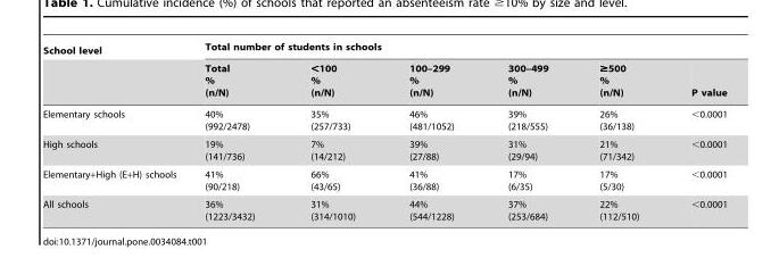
<table><thead><tr><td rowspan="2">School level</td><td colspan="6">Total number of students in schools</td></tr><tr><td>Total % (n/N)</td><td>&lt;100 % (n/N)</td><td>100–299 % (n/N)</td><td>300–499 % (n/N)</td><td>≥500 % (n/N)</td><td>P value</td></tr></thead><tbody><tr><td>Elementary schools</td><td>40% (992/2478)</td><td>35% (257/733)</td><td>46% (481/1052)</td><td>39% (218/555)</td><td>26% (36/138)</td><td>&lt;0.0001</td></tr><tr><td>High schools</td><td>19% (141/736)</td><td>7% (14/212)</td><td>39% (27/88)</td><td>31% (29/94)</td><td>21% (71/342)</td><td>&lt;0.0001</td></tr><tr><td>Elementary+High (E+H) schools</td><td>41% (90/218)</td><td>66% (43/65)</td><td>41% (36/88)</td><td>17% (6/35)</td><td>17% (5/30)</td><td>&lt;0.0001</td></tr><tr><td>All schools</td><td>36% (1223/3432)</td><td>31% (314/1010)</td><td>44% (544/1228)</td><td>37% (253/684)</td><td>22% (112/510)</td><td>&lt;0.0001</td></tr></tbody></table>